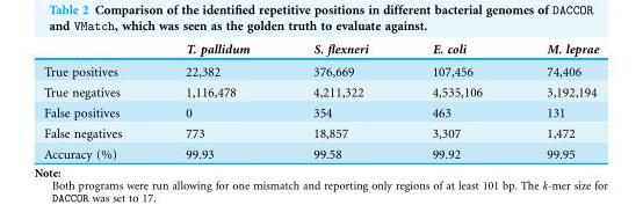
<table><thead><tr><td></td><td>T. pallidum</td><td>S. flexneri</td><td>E. coli</td><td>M. leprae</td></tr></thead><tbody><tr><td>True positives</td><td>22,382</td><td>376,669</td><td>107,456</td><td>74,406</td></tr><tr><td>True negatives</td><td>1,116,478</td><td>4,211,322</td><td>4,535,106</td><td>3,192,194</td></tr><tr><td>False positives</td><td>0</td><td>354</td><td>463</td><td>131</td></tr><tr><td>False negatives</td><td>773</td><td>18,857</td><td>3,307</td><td>1,472</td></tr><tr><td>Accuracy (%)</td><td>99.93</td><td>99.58</td><td>99.92</td><td>99.95</td></tr></tbody></table>